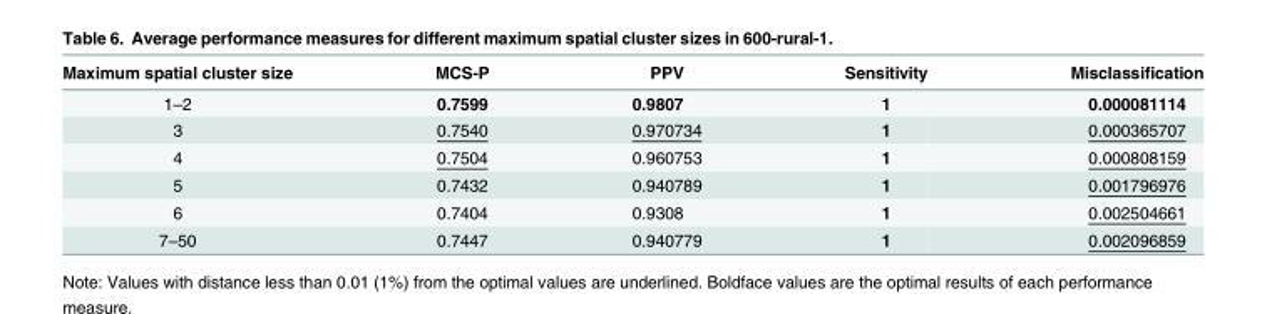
<table><thead><tr><td>Maximum spatial cluster size</td><td>MCS-P</td><td>PPV</td><td>Sensitivity</td><td>Misclassification</td></tr></thead><tbody><tr><td>1–2</td><td>0.7599</td><td>0.9807</td><td>1</td><td>0.000081114</td></tr><tr><td>3</td><td>0.7540</td><td>0.970734</td><td>1</td><td>0.000365707</td></tr><tr><td>4</td><td>0.7504</td><td>0.960753</td><td>1</td><td>0.000808159</td></tr><tr><td>5</td><td>0.7432</td><td>0.940789</td><td>1</td><td>0.001796976</td></tr><tr><td>6</td><td>0.7404</td><td>0.9308</td><td>1</td><td>0.002504661</td></tr><tr><td>7–50</td><td>0.7447</td><td>0.940779</td><td>1</td><td>0.002096859</td></tr></tbody></table>